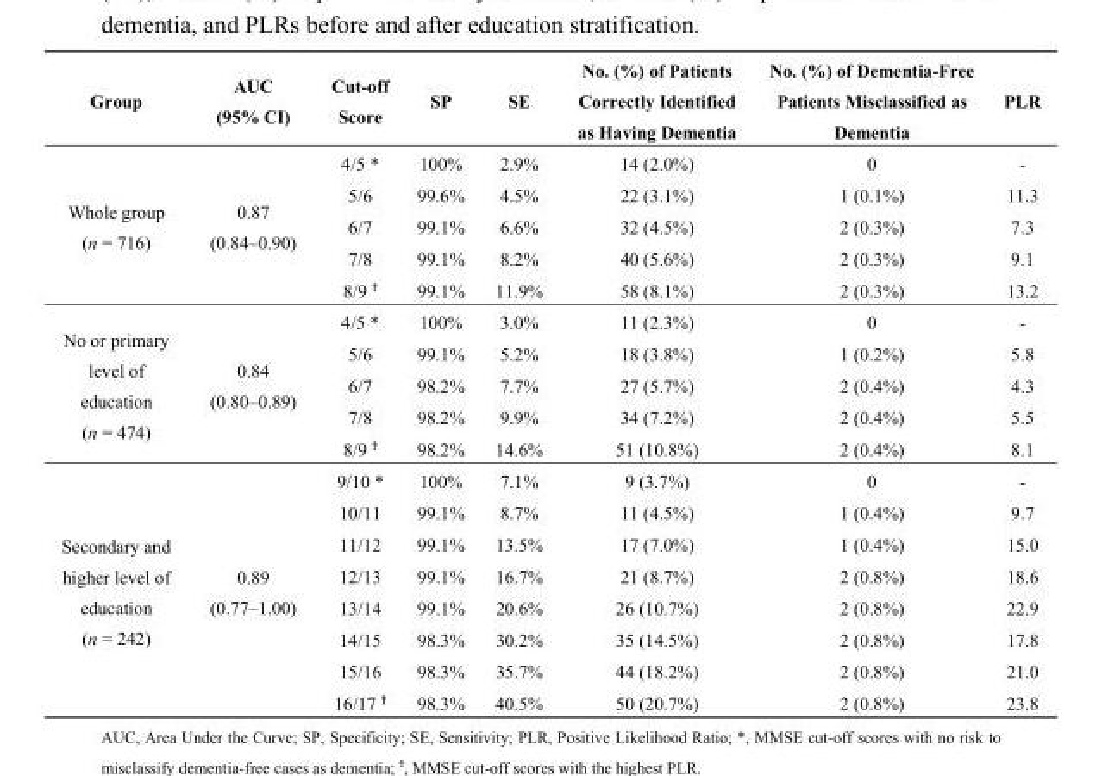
<table><thead><tr><td>Group</td><td>AUC (95% CI)</td><td>Cut-off Score</td><td>SP</td><td>SE</td><td>No. (%) of Patients Correctly Identified as Having Dementia</td><td>No. (%) of Dementia-Free Patients Misclassified as Dementia</td><td>PLR</td></tr></thead><tbody><tr><td rowspan="5">Whole group (n = 716)</td><td rowspan="5">0.87 (0.84–0.90)</td><td>4/5 *</td><td>100%</td><td>2.9%</td><td>14 (2.0%)</td><td>0</td><td>-</td></tr><tr><td>5/6</td><td>99.6%</td><td>4.5%</td><td>22 (3.1%)</td><td>1 (0.1%)</td><td>11.3</td></tr><tr><td>6/7</td><td>99.1%</td><td>6.6%</td><td>32 (4.5%)</td><td>2 (0.3%)</td><td>7.3</td></tr><tr><td>7/8</td><td>99.1%</td><td>8.2%</td><td>40 (5.6%)</td><td>2 (0.3%)</td><td>9.1</td></tr><tr><td>8/9 <sup>Ϯ</sup></td><td>99.1%</td><td>11.9%</td><td>58 (8.1%)</td><td>2 (0.3%)</td><td>13.2</td></tr><tr><td rowspan="5">No or primary level of education (n = 474)</td><td rowspan="5">0.84 (0.80–0.89)</td><td>4/5 *</td><td>100%</td><td>3.0%</td><td>11 (2.3%)</td><td>0</td><td>-</td></tr><tr><td>5/6</td><td>99.1%</td><td>5.2%</td><td>18 (3.8%)</td><td>1 (0.2%)</td><td>5.8</td></tr><tr><td>6/7</td><td>98.2%</td><td>7.7%</td><td>27 (5.7%)</td><td>2 (0.4%)</td><td>4.3</td></tr><tr><td>7/8</td><td>98.2%</td><td>9.9%</td><td>34 (7.2%)</td><td>2 (0.4%)</td><td>5.5</td></tr><tr><td>8/9 <sup>Ϯ</sup></td><td>98.2%</td><td>14.6%</td><td>51 (10.8%)</td><td>2 (0.4%)</td><td>8.1</td></tr><tr><td rowspan="8">Secondary and higher level of education (n = 242)</td><td rowspan="8">0.89 (0.77–1.00)</td><td>9/10 *</td><td>100%</td><td>7.1%</td><td>9 (3.7%)</td><td>0</td><td>-</td></tr><tr><td>10/11</td><td>99.1%</td><td>8.7%</td><td>11 (4.5%)</td><td>1 (0.4%)</td><td>9.7</td></tr><tr><td>11/12</td><td>99.1%</td><td>13.5%</td><td>17 (7.0%)</td><td>1 (0.4%)</td><td>15.0</td></tr><tr><td>12/13</td><td>99.1%</td><td>16.7%</td><td>21 (8.7%)</td><td>2 (0.8%)</td><td>18.6</td></tr><tr><td>13/14</td><td>99.1%</td><td>20.6%</td><td>26 (10.7%)</td><td>2 (0.8%)</td><td>22.9</td></tr><tr><td>14/15</td><td>98.3%</td><td>30.2%</td><td>35 (14.5%)</td><td>2 (0.8%)</td><td>17.8</td></tr><tr><td>15/16</td><td>98.3%</td><td>35.7%</td><td>44 (18.2%)</td><td>2 (0.8%)</td><td>21.0</td></tr><tr><td>16/17 <sup>Ϯ</sup></td><td>98.3%</td><td>40.5%</td><td>50 (20.7%)</td><td>2 (0.8%)</td><td>23.8</td></tr></tbody></table>